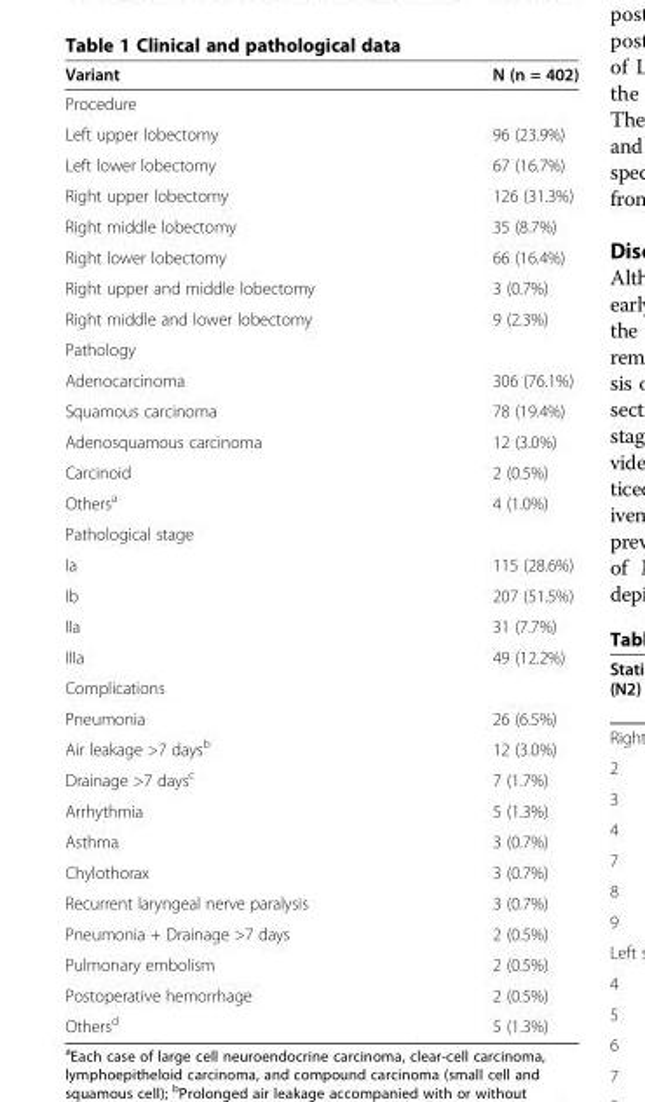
<table><thead><tr><td>Variant</td><td>N (n = 402)</td></tr></thead><tbody><tr><td colspan="2">Procedure</td></tr><tr><td>Left upper lobectomy</td><td>96 (23.9%)</td></tr><tr><td>Left lower lobectomy</td><td>67 (16.7%)</td></tr><tr><td>Right upper lobectomy</td><td>126 (31.3%)</td></tr><tr><td>Right middle lobectomy</td><td>35 (8.7%)</td></tr><tr><td>Right lower lobectomy</td><td>66 (16.4%)</td></tr><tr><td>Right upper and middle lobectomy</td><td>3 (0.7%)</td></tr><tr><td>Right middle and lower lobectomy</td><td>9 (2.3%)</td></tr><tr><td colspan="2">Pathology</td></tr><tr><td>Adenocarcinoma</td><td>306 (76.1%)</td></tr><tr><td>Squamous carcinoma</td><td>78 (19.4%)</td></tr><tr><td>Adenosquamous carcinoma</td><td>12 (3.0%)</td></tr><tr><td>Carcinoid</td><td>2 (0.5%)</td></tr><tr><td>Others<sup>a</sup></td><td>4 (1.0%)</td></tr><tr><td colspan="2">Pathological stage</td></tr><tr><td>Ia</td><td>115 (28.6%)</td></tr><tr><td>Ib</td><td>207 (51.5%)</td></tr><tr><td>IIa</td><td>31 (7.7%)</td></tr><tr><td>IIIa</td><td>49 (12.2%)</td></tr><tr><td colspan="2">Complications</td></tr><tr><td>Pneumonia</td><td>26 (6.5%)</td></tr><tr><td>Air leakage &gt;7 days<sup>b</sup></td><td>12 (3.0%)</td></tr><tr><td>Drainage &gt;7 days<sup>c</sup></td><td>7 (1.7%)</td></tr><tr><td>Arrhythmia</td><td>5 (1.3%)</td></tr><tr><td>Asthma</td><td>3 (0.7%)</td></tr><tr><td>Chylothorax</td><td>3 (0.7%)</td></tr><tr><td>Recurrent laryngeal nerve paralysis</td><td>3 (0.7%)</td></tr><tr><td>Pneumonia + Drainage &gt;7 days</td><td>2 (0.5%)</td></tr><tr><td>Pulmonary embolism</td><td>2 (0.5%)</td></tr><tr><td>Postoperative hemorrhage</td><td>2 (0.5%)</td></tr><tr><td>Others<sup>d</sup></td><td>5 (1.3%)</td></tr></tbody></table>